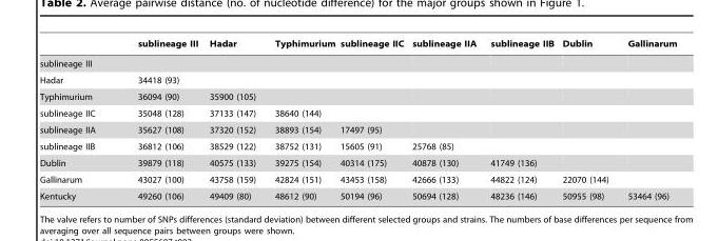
<table><thead><tr><td></td><td>sublineage III</td><td>Hadar</td><td>Typhimurium</td><td>sublineage IIC</td><td>sublineage IIA</td><td>sublineage IIB</td><td>Dublin</td><td>Gallinarum</td></tr></thead><tbody><tr><td colspan="9">sublineage III</td></tr><tr><td>Hadar</td><td>34418 (93)</td><td></td><td></td><td></td><td></td><td></td><td></td><td></td></tr><tr><td>Typhimurium</td><td>36094 (90)</td><td>35900 (105)</td><td></td><td></td><td></td><td></td><td></td><td></td></tr><tr><td>sublineage IIC</td><td>35048 (128)</td><td>37133 (147)</td><td>38640 (144)</td><td></td><td></td><td></td><td></td><td></td></tr><tr><td>sublineage IIA</td><td>35627 (108)</td><td>37320 (152)</td><td>38893 (154)</td><td>17497 (95)</td><td></td><td></td><td></td><td></td></tr><tr><td>sublineage IIB</td><td>36812 (106)</td><td>38529 (122)</td><td>38752 (131)</td><td>15605 (91)</td><td>25768 (85)</td><td></td><td></td><td></td></tr><tr><td>Dublin</td><td>39879 (118)</td><td>40575 (133)</td><td>39275 (154)</td><td>40314 (175)</td><td>40878 (130)</td><td>41749 (136)</td><td></td><td></td></tr><tr><td>Gallinarum</td><td>43027 (100)</td><td>43758 (159)</td><td>42824 (151)</td><td>43453 (158)</td><td>42666 (133)</td><td>44822 (124)</td><td>22070 (144)</td><td></td></tr><tr><td>Kentucky</td><td>49260 (106)</td><td>49409 (80)</td><td>48612 (90)</td><td>50194 (96)</td><td>50694 (128)</td><td>48236 (146)</td><td>50955 (98)</td><td>53464 (96)</td></tr></tbody></table>